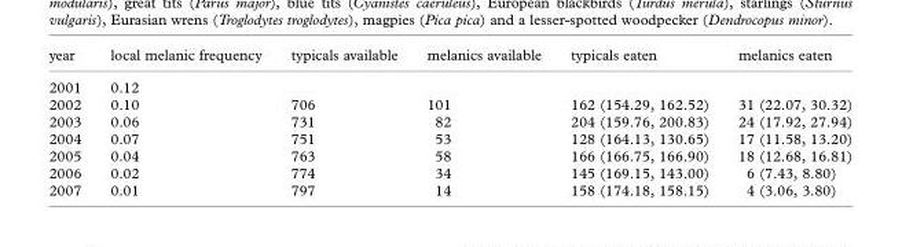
<table><thead><tr><td>year</td><td>local melanic frequency</td><td>typicals available</td><td>melanics available</td><td>typicals eaten</td><td>melanics eaten</td></tr></thead><tbody><tr><td>2001</td><td>0.12</td><td></td><td></td><td></td><td></td></tr><tr><td>2002</td><td>0.10</td><td>706</td><td>101</td><td>162 (154.29, 162.52)</td><td>31 (22.07, 30.32)</td></tr><tr><td>2003</td><td>0.06</td><td>731</td><td>82</td><td>204 (159.76, 200.83)</td><td>24 (17.92, 27.94)</td></tr><tr><td>2004</td><td>0.07</td><td>751</td><td>53</td><td>128 (164.13, 130.65)</td><td>17 (11.58, 13.20)</td></tr><tr><td>2005</td><td>0.04</td><td>763</td><td>58</td><td>166 (166.75, 166.90)</td><td>18 (12.68, 16.81)</td></tr><tr><td>2006</td><td>0.02</td><td>774</td><td>34</td><td>145 (169.15, 143.00)</td><td>6 (7.43, 8.80)</td></tr><tr><td>2007</td><td>0.01</td><td>797</td><td>14</td><td>158 (174.18, 158.15)</td><td>4 (3.06, 3.80)</td></tr></tbody></table>